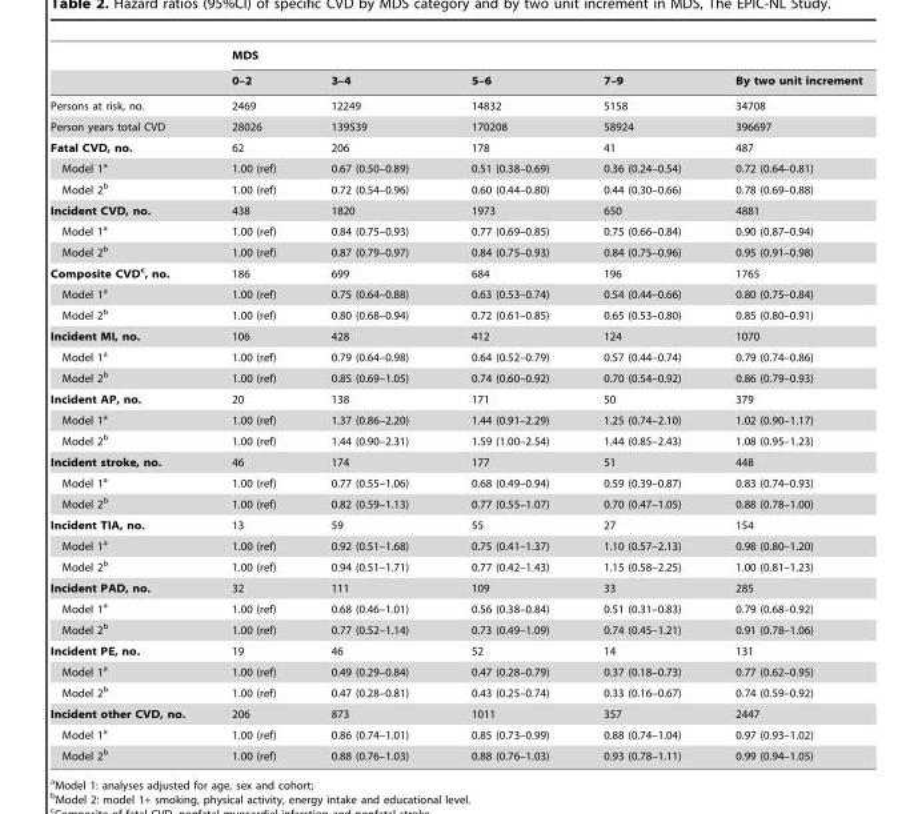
<table><thead><tr><td rowspan="2"></td><td colspan="5">MDS</td></tr><tr><td>0–2</td><td>3–4</td><td>5–6</td><td>7–9</td><td>By two unit increment</td></tr></thead><tbody><tr><td>Persons at risk, no.</td><td>2469</td><td>12249</td><td>14832</td><td>5158</td><td>34708</td></tr><tr><td>Person years total CVD</td><td>28026</td><td>139539</td><td>170208</td><td>58924</td><td>396697</td></tr><tr><td>Fatal CVD, no.</td><td>62</td><td>206</td><td>178</td><td>41</td><td>487</td></tr><tr><td>Model 1<sup>a</sup></td><td>1.00 (ref)</td><td>0.67 (0.50–0.89)</td><td>0.51 (0.38–0.69)</td><td>0.36 (0.24–0.54)</td><td>0.72 (0.64–0.81)</td></tr><tr><td>Model 2<sup>b</sup></td><td>1.00 (ref)</td><td>0.72 (0.54–0.96)</td><td>0.60 (0.44–0.80)</td><td>0.44 (0.30–0.66)</td><td>0.78 (0.69–0.88)</td></tr><tr><td>Incident CVD, no.</td><td>438</td><td>1820</td><td>1973</td><td>650</td><td>4881</td></tr><tr><td>Model 1<sup>a</sup></td><td>1.00 (ref)</td><td>0.84 (0.75–0.93)</td><td>0.77 (0.69–0.85)</td><td>0.75 (0.66–0.84)</td><td>0.90 (0.87–0.94)</td></tr><tr><td>Model 2<sup>b</sup></td><td>1.00 (ref)</td><td>0.87 (0.79–0.97)</td><td>0.84 (0.75–0.93)</td><td>0.84 (0.75–0.96)</td><td>0.95 (0.91–0.98)</td></tr><tr><td>Composite CVDc, no.</td><td>186</td><td>699</td><td>684</td><td>196</td><td>1765</td></tr><tr><td>Model 1<sup>a</sup></td><td>1.00 (ref)</td><td>0.75 (0.64–0.88)</td><td>0.63 (0.53–0.74)</td><td>0.54 (0.44–0.66)</td><td>0.80 (0.75–0.84)</td></tr><tr><td>Model 2<sup>b</sup></td><td>1.00 (ref)</td><td>0.80 (0.68–0.94)</td><td>0.72 (0.61–0.85)</td><td>0.65 (0.53–0.80)</td><td>0.85 (0.80–0.91)</td></tr><tr><td>Incident MI, no.</td><td>106</td><td>428</td><td>412</td><td>124</td><td>1070</td></tr><tr><td>Model 1<sup>a</sup></td><td>1.00 (ref)</td><td>0.79 (0.64–0.98)</td><td>0.64 (0.52–0.79)</td><td>0.57 (0.44–0.74)</td><td>0.79 (0.74–0.86)</td></tr><tr><td>Model 2<sup>b</sup></td><td>1.00 (ref)</td><td>0.85 (0.69–1.05)</td><td>0.74 (0.60–0.92)</td><td>0.70 (0.54–0.92)</td><td>0.86 (0.79–0.93)</td></tr><tr><td>Incident AP, no.</td><td>20</td><td>138</td><td>171</td><td>50</td><td>379</td></tr><tr><td>Model 1<sup>a</sup></td><td>1.00 (ref)</td><td>1.37 (0.86–2.20)</td><td>1.44 (0.91–2.29)</td><td>1.25 (0.74–2.10)</td><td>1.02 (0.90–1.17)</td></tr><tr><td>Model 2<sup>b</sup></td><td>1.00 (ref)</td><td>1.44 (0.90–2.31)</td><td>1.59 (1.00–2.54)</td><td>1.44 (0.85–2.43)</td><td>1.08 (0.95–1.23)</td></tr><tr><td>Incident stroke, no.</td><td>46</td><td>174</td><td>177</td><td>51</td><td>448</td></tr><tr><td>Model 1<sup>a</sup></td><td>1.00 (ref)</td><td>0.77 (0.55–1.06)</td><td>0.68 (0.49–0.94)</td><td>0.59 (0.39–0.87)</td><td>0.83 (0.74–0.93)</td></tr><tr><td>Model 2<sup>b</sup></td><td>1.00 (ref)</td><td>0.82 (0.59–1.13)</td><td>0.77 (0.55–1.07)</td><td>0.70 (0.47–1.05)</td><td>0.88 (0.78–1.00)</td></tr><tr><td>Incident TIA, no.</td><td>13</td><td>59</td><td>55</td><td>27</td><td>154</td></tr><tr><td>Model 1<sup>a</sup></td><td>1.00 (ref)</td><td>0.92 (0.51–1.68)</td><td>0.75 (0.41–1.37)</td><td>1.10 (0.57–2.13)</td><td>0.98 (0.80–1.20)</td></tr><tr><td>Model 2<sup>b</sup></td><td>1.00 (ref)</td><td>0.94 (0.51–1.71)</td><td>0.77 (0.42–1.43)</td><td>1.15 (0.58–2.25)</td><td>1.00 (0.81–1.23)</td></tr><tr><td>Incident PAD, no.</td><td>32</td><td>111</td><td>109</td><td>33</td><td>285</td></tr><tr><td>Model 1<sup>a</sup></td><td>1.00 (ref)</td><td>0.68 (0.46–1.01)</td><td>0.56 (0.38–0.84)</td><td>0.51 (0.31–0.83)</td><td>0.79 (0.68–0.92)</td></tr><tr><td>Model 2<sup>b</sup></td><td>1.00 (ref)</td><td>0.77 (0.52–1.14)</td><td>0.73 (0.49–1.09)</td><td>0.74 (0.45–1.21)</td><td>0.91 (0.78–1.06)</td></tr><tr><td>Incident PE, no.</td><td>19</td><td>46</td><td>52</td><td>14</td><td>131</td></tr><tr><td>Model 1<sup>a</sup></td><td>1.00 (ref)</td><td>0.49 (0.29–0.84)</td><td>0.47 (0.28–0.79)</td><td>0.37 (0.18–0.73)</td><td>0.77 (0.62–0.95)</td></tr><tr><td>Model 2<sup>b</sup></td><td>1.00 (ref)</td><td>0.47 (0.28–0.81)</td><td>0.43 (0.25–0.74)</td><td>0.33 (0.16–0.67)</td><td>0.74 (0.59–0.92)</td></tr><tr><td>Incident other CVD, no.</td><td>206</td><td>873</td><td>1011</td><td>357</td><td>2447</td></tr><tr><td>Model 1<sup>a</sup></td><td>1.00 (ref)</td><td>0.86 (0.74–1.01)</td><td>0.85 (0.73–0.99)</td><td>0.88 (0.74–1.04)</td><td>0.97 (0.93–1.02)</td></tr><tr><td>Model 2<sup>b</sup></td><td>1.00 (ref)</td><td>0.88 (0.76–1.03)</td><td>0.88 (0.76–1.03)</td><td>0.93 (0.78–1.11)</td><td>0.99 (0.94–1.05)</td></tr></tbody></table>